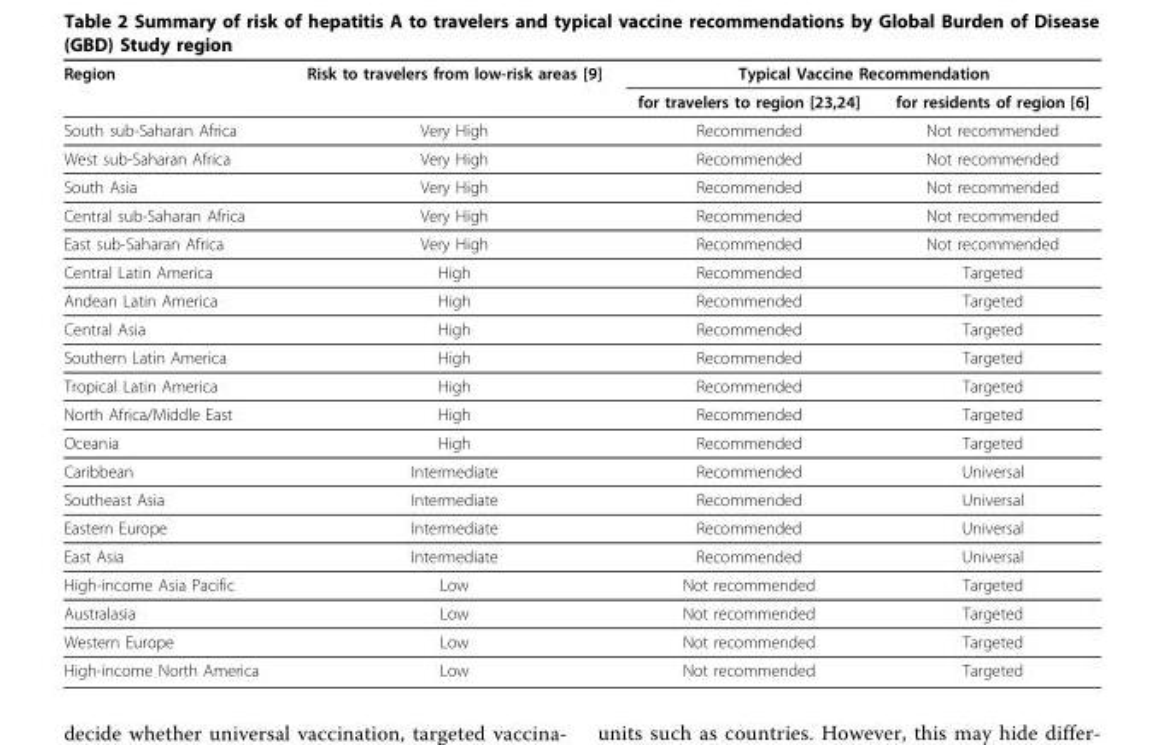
<table><thead><tr><td rowspan="2">Region</td><td rowspan="2">Risk to travelers from low-risk areas [9]</td><td colspan="2">Typical Vaccine Recommendation</td></tr><tr><td>for travelers to region [23,24]</td><td>for residents of region [6]</td></tr></thead><tbody><tr><td>South sub-Saharan Africa</td><td>Very High</td><td>Recommended</td><td>Not recommended</td></tr><tr><td>West sub-Saharan Africa</td><td>Very High</td><td>Recommended</td><td>Not recommended</td></tr><tr><td>South Asia</td><td>Very High</td><td>Recommended</td><td>Not recommended</td></tr><tr><td>Central sub-Saharan Africa</td><td>Very High</td><td>Recommended</td><td>Not recommended</td></tr><tr><td>East sub-Saharan Africa</td><td>Very High</td><td>Recommended</td><td>Not recommended</td></tr><tr><td>Central Latin America</td><td>High</td><td>Recommended</td><td>Targeted</td></tr><tr><td>Andean Latin America</td><td>High</td><td>Recommended</td><td>Targeted</td></tr><tr><td>Central Asia</td><td>High</td><td>Recommended</td><td>Targeted</td></tr><tr><td>Southern Latin America</td><td>High</td><td>Recommended</td><td>Targeted</td></tr><tr><td>Tropical Latin America</td><td>High</td><td>Recommended</td><td>Targeted</td></tr><tr><td>North Africa/Middle East</td><td>High</td><td>Recommended</td><td>Targeted</td></tr><tr><td>Oceania</td><td>High</td><td>Recommended</td><td>Targeted</td></tr><tr><td>Caribbean</td><td>Intermediate</td><td>Recommended</td><td>Universal</td></tr><tr><td>Southeast Asia</td><td>Intermediate</td><td>Recommended</td><td>Universal</td></tr><tr><td>Eastern Europe</td><td>Intermediate</td><td>Recommended</td><td>Universal</td></tr><tr><td>East Asia</td><td>Intermediate</td><td>Recommended</td><td>Universal</td></tr><tr><td>High-income Asia Pacific</td><td>Low</td><td>Not recommended</td><td>Targeted</td></tr><tr><td>Australasia</td><td>Low</td><td>Not recommended</td><td>Targeted</td></tr><tr><td>Western Europe</td><td>Low</td><td>Not recommended</td><td>Targeted</td></tr><tr><td>High-income North America</td><td>Low</td><td>Not recommended</td><td>Targeted</td></tr></tbody></table>